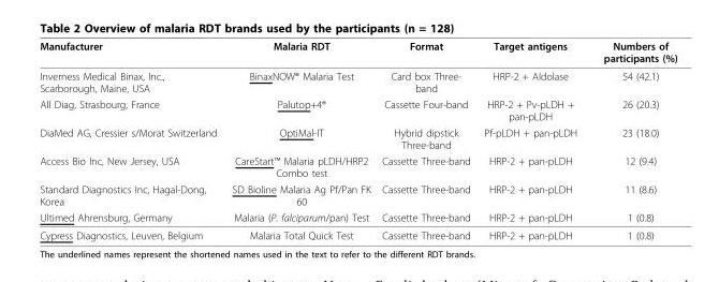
<table><thead><tr><td>Manufacturer</td><td>Malaria RDT</td><td>Format</td><td>Target antigens</td><td>Numbers of participants (%)</td></tr></thead><tbody><tr><td>Inverness Medical Binax, Inc., Scarborough, Maine, USA</td><td>BinaxNOW<sup>®</sup> Malaria Test</td><td>Card box Three- band</td><td>HRP-2 + Aldolase</td><td>54 (42.1)</td></tr><tr><td>All Diag, Strasbourg, France</td><td>Palutop+4<sup>®</sup></td><td>Cassette Four-band</td><td>HRP-2 + Pv-pLDH + pan-pLDH</td><td>26 (20.3)</td></tr><tr><td>DiaMed AG, Cressier s/Morat Switzerland</td><td>OptiMal-IT</td><td>Hybrid dipstick Three-band</td><td>Pf-pLDH + pan-pLDH</td><td>23 (18.0)</td></tr><tr><td>Access Bio Inc, New Jersey, USA</td><td>CareStart™ Malaria pLDH/HRP2 Combo test</td><td>Cassette Three-band</td><td>HRP-2 + pan-pLDH</td><td>12 (9.4)</td></tr><tr><td>Standard Diagnostics Inc, Hagal-Dong, Korea</td><td>SD Bioline Malaria Ag Pf/Pan FK 60</td><td>Cassette Three-band</td><td>HRP-2 + pan-pLDH</td><td>11 (8.6)</td></tr><tr><td>Ultimed Ahrensburg, Germany</td><td>Malaria (P. falciparum/pan) Test</td><td>Cassette Three-band</td><td>HRP-2 + pan-pLDH</td><td>1 (0.8)</td></tr><tr><td>Cypress Diagnostics, Leuven, Belgium</td><td>Malaria Total Quick Test</td><td>Cassette Three-band</td><td>HRP-2 + pan-pLDH</td><td>1 (0.8)</td></tr></tbody></table>